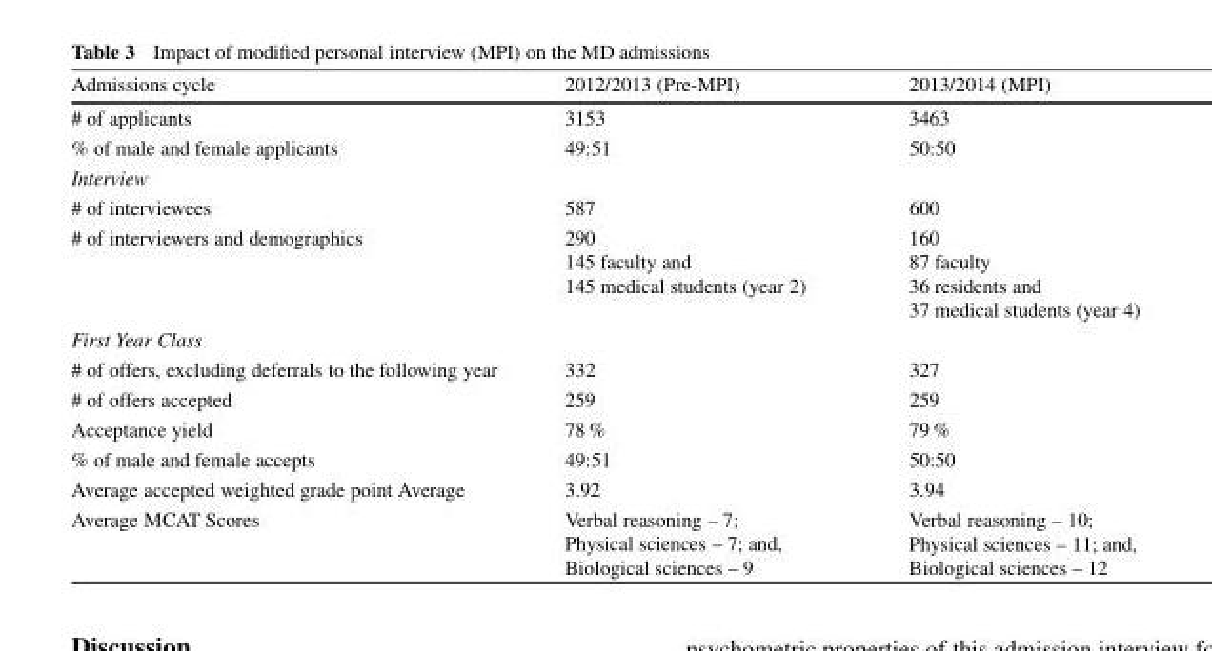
<table><thead><tr><td>Admissions cycle</td><td>2012/2013 (Pre-MPI)</td><td>2013/2014 (MPI)</td></tr></thead><tbody><tr><td># of applicants</td><td>3153</td><td>3463</td></tr><tr><td>% of male and female applicants</td><td>49:51</td><td>50:50</td></tr><tr><td colspan="3">Interview</td></tr><tr><td># of interviewees</td><td>587</td><td>600</td></tr><tr><td># of interviewers and demographics</td><td>290 145 faculty and 145 medical students (year 2)</td><td>160 87 faculty 36 residents and 37 medical students (year 4)</td></tr><tr><td colspan="3">First Year Class</td></tr><tr><td># of offers, excluding deferrals to the following year</td><td>332</td><td>327</td></tr><tr><td># of offers accepted</td><td>259</td><td>259</td></tr><tr><td>Acceptance yield</td><td>78 %</td><td>79 %</td></tr><tr><td>% of male and female accepts</td><td>49:51</td><td>50:50</td></tr><tr><td>Average accepted weighted grade point Average</td><td>3.92</td><td>3.94</td></tr><tr><td>Average MCAT Scores</td><td>Verbal reasoning – 7; Physical sciences – 7; and, Biological sciences – 9</td><td>Verbal reasoning – 10; Physical sciences – 11; and, Biological sciences – 12</td></tr></tbody></table>